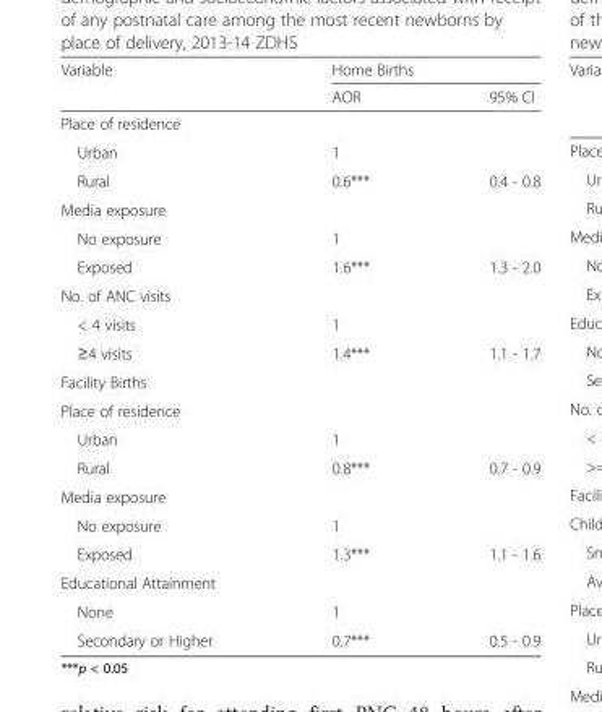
<table><thead><tr><td rowspan="2">Variable</td><td colspan="2">Home Births</td></tr><tr><td>AOR</td><td>95% CI</td></tr></thead><tbody><tr><td colspan="3">Place of residence</td></tr><tr><td>Urban</td><td>1</td><td></td></tr><tr><td>Rural</td><td>0.6***</td><td>0.4 - 0.8</td></tr><tr><td colspan="3">Media exposure</td></tr><tr><td>No exposure</td><td>1</td><td></td></tr><tr><td>Exposed</td><td>1.6***</td><td>1.3 - 2.0</td></tr><tr><td colspan="3">No. of ANC visits</td></tr><tr><td>&lt; 4 visits</td><td>1</td><td></td></tr><tr><td>≥4 visits</td><td>1.4***</td><td>1.1 - 1.7</td></tr><tr><td colspan="3">Facility Births</td></tr><tr><td colspan="3">Place of residence</td></tr><tr><td>Urban</td><td>1</td><td></td></tr><tr><td>Rural</td><td>0.8***</td><td>0.7 - 0.9</td></tr><tr><td colspan="3">Media exposure</td></tr><tr><td>No exposure</td><td>1</td><td></td></tr><tr><td>Exposed</td><td>1.3***</td><td>1.1 - 1.6</td></tr><tr><td colspan="3">Educational Attainment</td></tr><tr><td>None</td><td>1</td><td></td></tr><tr><td>Secondary or Higher</td><td>0.7***</td><td>0.5 - 0.9</td></tr></tbody></table>